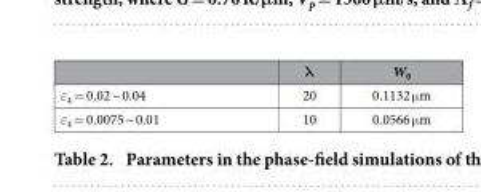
<table><thead><tr><td></td><td>λ</td><td>W<sub>0</sub></td></tr></thead><tbody><tr><td>ε<sub>4</sub> = 0.02 ~ 0.04</td><td>20</td><td>0.1132 μ</td></tr><tr><td>ε<sub>4</sub> = 0.0075 ~ 0.01</td><td>10</td><td>0.0566 μ</td></tr></tbody></table>